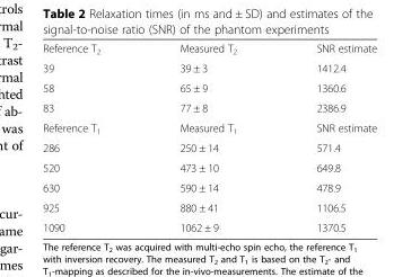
<table><tbody><tr><td>Reference T<sub>2</sub></td><td>Measured T<sub>2</sub></td><td>SNR estimate</td></tr><tr><td>39</td><td>39 ± 3</td><td>1412.4</td></tr><tr><td>58</td><td>65 ± 9</td><td>1360.6</td></tr><tr><td>83</td><td>77 ± 8</td><td>2386.9</td></tr><tr><td>Reference T<sub>1</sub></td><td>Measured T<sub>1</sub></td><td>SNR estimate</td></tr><tr><td>286</td><td>250 ± 14</td><td>571.4</td></tr><tr><td>520</td><td>473 ± 10</td><td>649.8</td></tr><tr><td>630</td><td>590 ± 14</td><td>478.9</td></tr><tr><td>925</td><td>880 ± 41</td><td>1106.5</td></tr><tr><td>1090</td><td>1062 ± 9</td><td>1370.5</td></tr></tbody></table>